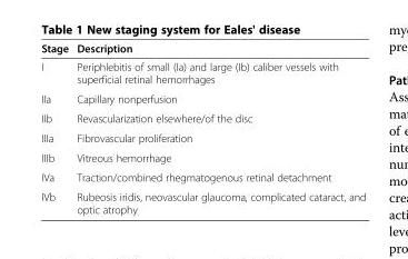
<table><thead><tr><td>Stage</td><td>Description</td></tr></thead><tbody><tr><td>I</td><td>Periphlebitis of small (Ia) and large (Ib) caliber vessels with superficial retinal hemorrhages</td></tr><tr><td>IIa</td><td>Capillary nonperfusion</td></tr><tr><td>IIb</td><td>Revascularization elsewhere/of the disc</td></tr><tr><td>IIIa</td><td>Fibrovascular proliferation</td></tr><tr><td>IIIb</td><td>Vitreous hemorrhage</td></tr><tr><td>IVa</td><td>Traction/combined rhegmatogenous retinal detachment</td></tr><tr><td>IVb</td><td>Rubeosis iridis, neovascular glaucoma, complicated cataract, and optic atrophy</td></tr></tbody></table>